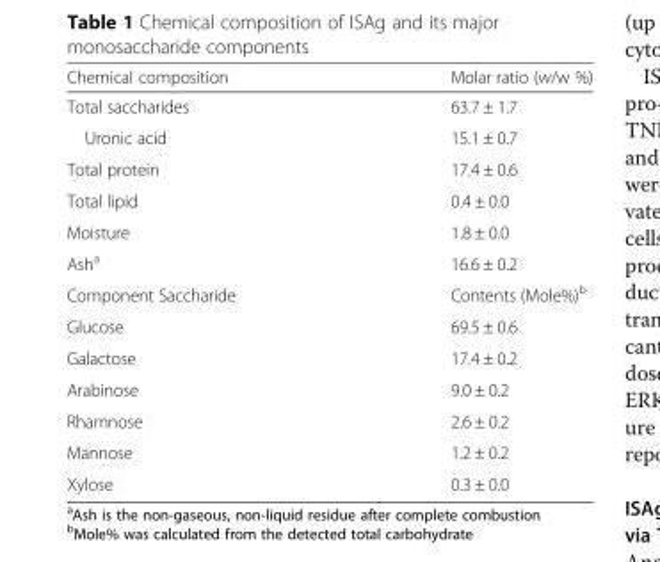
<table><thead><tr><td>Chemical composition</td><td>Molar ratio (w/w %)</td></tr></thead><tbody><tr><td>Total saccharides</td><td>63.7 ± 1.7</td></tr><tr><td>Uronic acid</td><td>15.1 ± 0.7</td></tr><tr><td>Total protein</td><td>17.4 ± 0.6</td></tr><tr><td>Total lipid</td><td>0.4 ± 0.0</td></tr><tr><td>Moisture</td><td>1.8 ± 0.0</td></tr><tr><td>Ash<sup>a</sup></td><td>16.6 ± 0.2</td></tr><tr><td>Component Saccharide</td><td>Contents (Mole%)<sup>b</sup></td></tr><tr><td>Glucose</td><td>69.5 ± 0.6</td></tr><tr><td>Galactose</td><td>17.4 ± 0.2</td></tr><tr><td>Arabinose</td><td>9.0 ± 0.2</td></tr><tr><td>Rhamnose</td><td>2.6 ± 0.2</td></tr><tr><td>Mannose</td><td>1.2 ± 0.2</td></tr><tr><td>Xylose</td><td>0.3 ± 0.0</td></tr></tbody></table>